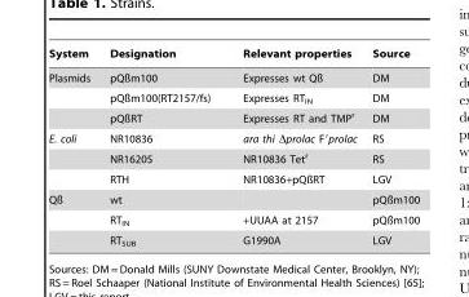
<table><thead><tr><td>System</td><td>Designation</td><td>Relevant properties</td><td>Source</td></tr></thead><tbody><tr><td rowspan="3">Plasmids</td><td>pQßm100</td><td>Expresses wt Qß</td><td>DM</td></tr><tr><td>pQßm100(RT2157/fs)</td><td>Expresses RT<sub>IN</sub></td><td>DM</td></tr><tr><td>pQßRT</td><td>Expresses RT and TMP<sup>r</sup></td><td>DM</td></tr><tr><td rowspan="3">E. coli</td><td>NR10836</td><td>ara thi Δprolac F′prolac</td><td>RS</td></tr><tr><td>NR16205</td><td>NR10836 Tet<sup>r</sup></td><td>RS</td></tr><tr><td>RTH</td><td>NR10836+pQßRT</td><td>LGV</td></tr><tr><td rowspan="3">Qß</td><td>wt</td><td></td><td>pQßm100</td></tr><tr><td>RT<sub>IN</sub></td><td>+UUAA at 2157</td><td>pQßm100</td></tr><tr><td>RT<sub>SUB</sub></td><td>G1990A</td><td>LGV</td></tr></tbody></table>